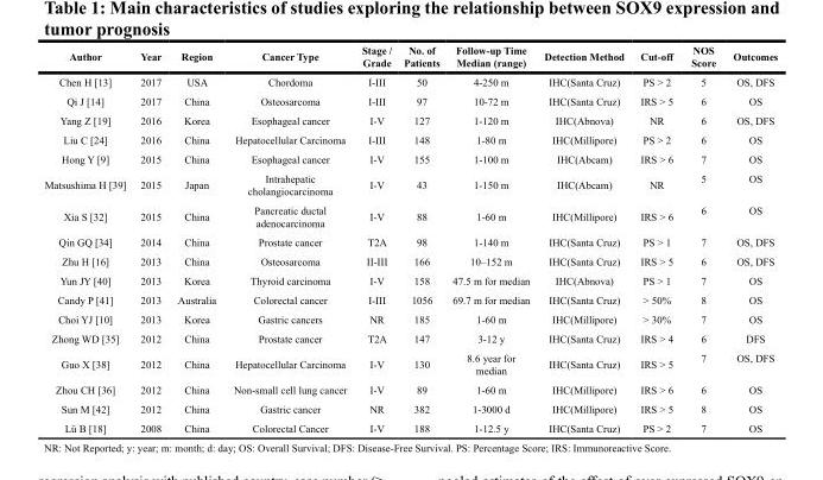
<table><thead><tr><td>Author</td><td>Year</td><td>Region</td><td>Cancer Type</td><td>Stage / Grade</td><td>No. of Patients</td><td>Follow-up Time Median (range)</td><td>Detection Method</td><td>Cut-off</td><td>NOS Score</td><td>Outcomes</td></tr></thead><tbody><tr><td>Chen H [13]</td><td>2017</td><td>USA</td><td>Chordoma</td><td>I-III</td><td>50</td><td>4-250 m</td><td>IHC(Santa Cruz)</td><td>PS &gt; 2</td><td>5</td><td>OS, DFS</td></tr><tr><td>Qi J [14]</td><td>2017</td><td>China</td><td>Osteosarcoma</td><td>I-III</td><td>97</td><td>10-72 m</td><td>IHC(Santa Cruz)</td><td>IRS &gt; 5</td><td>6</td><td>OS</td></tr><tr><td>Yang Z [19]</td><td>2016</td><td>Korea</td><td>Esophageal cancer</td><td>I-V</td><td>127</td><td>1-120 m</td><td>IHC(Abnova)</td><td>NR</td><td>6</td><td>OS, DFS</td></tr><tr><td>Liu C [24]</td><td>2016</td><td>China</td><td>Hepatocellular Carcinoma</td><td>I-III</td><td>148</td><td>1-80 m</td><td>IHC(Millipore)</td><td>PS &gt; 2</td><td>6</td><td>OS</td></tr><tr><td>Hong Y [9]</td><td>2015</td><td>China</td><td>Esophageal cancer</td><td>I-V</td><td>155</td><td>1-100 m</td><td>IHC(Abcam)</td><td>IRS &gt; 6</td><td>7</td><td>OS</td></tr><tr><td>Matsushima H [39]</td><td>2015</td><td>Japan</td><td>Intrahepatic cholangiocarcinoma</td><td>I-V</td><td>43</td><td>1-150 m</td><td>IHC(Abcam)</td><td>NR</td><td>5</td><td>OS</td></tr><tr><td>Xia S [32]</td><td>2015</td><td>China</td><td>Pancreatic ductal adenocarcinoma</td><td>I-V</td><td>88</td><td>1-60 m</td><td>IHC(Millipore)</td><td>IRS &gt; 6</td><td>6</td><td>OS</td></tr><tr><td>Qin GQ [34]</td><td>2014</td><td>China</td><td>Prostate cancer</td><td>T2A</td><td>98</td><td>1-140 m</td><td>IHC(Santa Cruz)</td><td>PS &gt; 1</td><td>7</td><td>OS, DFS</td></tr><tr><td>Zhu H [16]</td><td>2013</td><td>China</td><td>Osteosarcoma</td><td>II-III</td><td>166</td><td>10–152 m</td><td>IHC(Santa Cruz)</td><td>IRS &gt; 5</td><td>6</td><td>OS, DFS</td></tr><tr><td>Yun JY [40]</td><td>2013</td><td>Korea</td><td>Thyroid carcinoma</td><td>I-V</td><td>158</td><td>47.5 m for median</td><td>IHC(Abnova)</td><td>PS &gt; 1</td><td>7</td><td>OS</td></tr><tr><td>Candy P [41]</td><td>2013</td><td>Australia</td><td>Colorectal cancer</td><td>I-III</td><td>1056</td><td>69.7 m for median</td><td>IHC(Santa Cruz)</td><td>&gt; 50%</td><td>8</td><td>OS</td></tr><tr><td>Choi YJ [10]</td><td>2013</td><td>Korea</td><td>Gastric cancers</td><td>NR</td><td>185</td><td>1-60 m</td><td>IHC(Millipore)</td><td>&gt; 30%</td><td>7</td><td>OS</td></tr><tr><td>Zhong WD [35]</td><td>2012</td><td>China</td><td>Prostate cancer</td><td>T2A</td><td>147</td><td>3-12 y</td><td>IHC(Santa Cruz)</td><td>IRS &gt; 4</td><td>6</td><td>DFS</td></tr><tr><td>Guo X [38]</td><td>2012</td><td>China</td><td>Hepatocellular Carcinoma</td><td>I-V</td><td>130</td><td>8.6 year for median</td><td>IHC(Santa Cruz)</td><td>IRS &gt; 5</td><td>7</td><td>OS, DFS</td></tr><tr><td>Zhou CH [36]</td><td>2012</td><td>China</td><td>Non-small cell lung cancer</td><td>I-V</td><td>89</td><td>1-60 m</td><td>IHC(Millipore)</td><td>IRS &gt; 6</td><td>6</td><td>OS</td></tr><tr><td>Sun M [42]</td><td>2012</td><td>China</td><td>Gastric cancer</td><td>NR</td><td>382</td><td>1-3000 d</td><td>IHC(Millipore)</td><td>IRS &gt; 5</td><td>8</td><td>OS</td></tr><tr><td>Lü B [18]</td><td>2008</td><td>China</td><td>Colorectal Cancer</td><td>I-V</td><td>188</td><td>1-12.5 y</td><td>IHC(Santa Cruz)</td><td>PS &gt; 2</td><td>7</td><td>OS</td></tr></tbody></table>